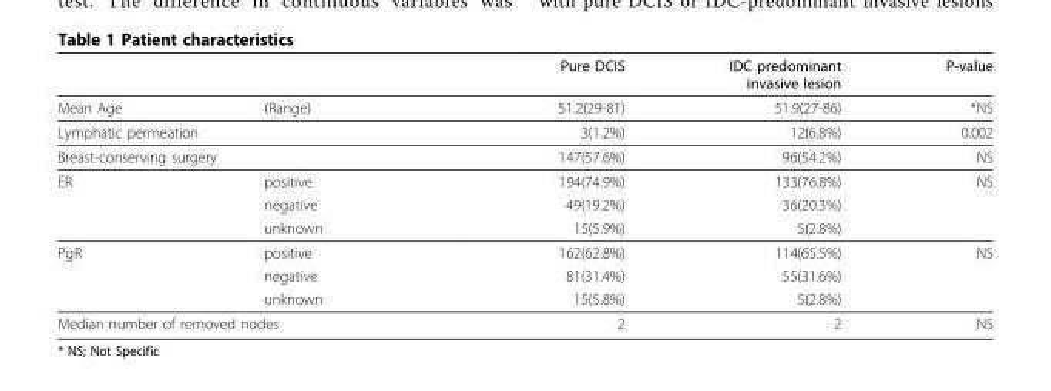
<table><thead><tr><td></td><td></td><td>Pure DCIS</td><td>IDC predominant invasive lesion</td><td>P-value</td></tr></thead><tbody><tr><td>Mean Age</td><td>(Range)</td><td>51.2(29-81)</td><td>51.9(27-86)</td><td>*NS</td></tr><tr><td colspan="2">Lymphatic permeation</td><td>3(1.2%)</td><td>12(6.8%)</td><td>0.002</td></tr><tr><td colspan="2">Breast-conserving surgery</td><td>147(57.6%)</td><td>96(54.2%)</td><td>NS</td></tr><tr><td rowspan="3">ER</td><td>positive</td><td>194(74.9%)</td><td>133(76.8%)</td><td>NS</td></tr><tr><td>negative</td><td>49(19.2%)</td><td>36(20.3%)</td><td></td></tr><tr><td>unknown</td><td>15(5.9%)</td><td>5(2.8%)</td><td></td></tr><tr><td rowspan="3">PgR</td><td>positive</td><td>162(62.8%)</td><td>114(65.5%)</td><td>NS</td></tr><tr><td>negative</td><td>81(31.4%)</td><td>55(31.6%)</td><td></td></tr><tr><td>unknown</td><td>15(5.8%)</td><td>5(2.8%)</td><td></td></tr><tr><td colspan="2">Median number of removed nodes</td><td>2</td><td>2</td><td>NS</td></tr></tbody></table>